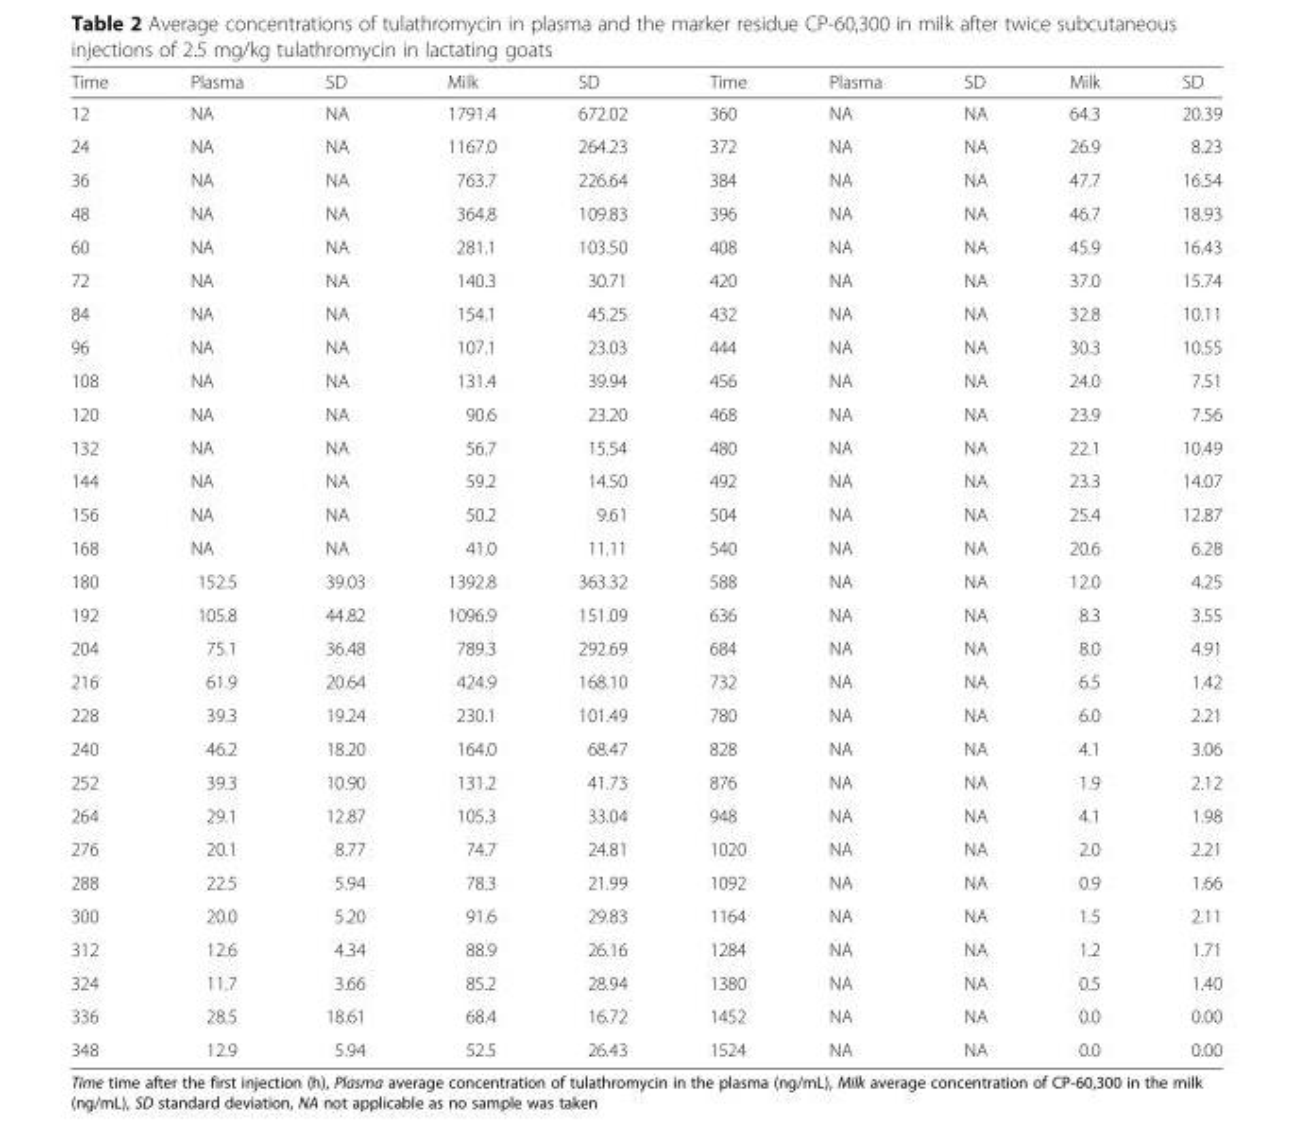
<table><thead><tr><td>Time</td><td>Plasma</td><td>SD</td><td>Milk</td><td>SD</td><td>Time</td><td>Plasma</td><td>SD</td><td>Milk</td><td>SD</td></tr></thead><tbody><tr><td>12</td><td>NA</td><td>NA</td><td>1791.4</td><td>672.02</td><td>360</td><td>NA</td><td>NA</td><td>64.3</td><td>20.39</td></tr><tr><td>24</td><td>NA</td><td>NA</td><td>1167.0</td><td>264.23</td><td>372</td><td>NA</td><td>NA</td><td>26.9</td><td>8.23</td></tr><tr><td>36</td><td>NA</td><td>NA</td><td>763.7</td><td>226.64</td><td>384</td><td>NA</td><td>NA</td><td>47.7</td><td>16.54</td></tr><tr><td>48</td><td>NA</td><td>NA</td><td>364.8</td><td>109.83</td><td>396</td><td>NA</td><td>NA</td><td>46.7</td><td>18.93</td></tr><tr><td>60</td><td>NA</td><td>NA</td><td>281.1</td><td>103.50</td><td>408</td><td>NA</td><td>NA</td><td>45.9</td><td>16.43</td></tr><tr><td>72</td><td>NA</td><td>NA</td><td>140.3</td><td>30.71</td><td>420</td><td>NA</td><td>NA</td><td>37.0</td><td>15.74</td></tr><tr><td>84</td><td>NA</td><td>NA</td><td>154.1</td><td>45.25</td><td>432</td><td>NA</td><td>NA</td><td>32.8</td><td>10.11</td></tr><tr><td>96</td><td>NA</td><td>NA</td><td>107.1</td><td>23.03</td><td>444</td><td>NA</td><td>NA</td><td>30.3</td><td>10.55</td></tr><tr><td>108</td><td>NA</td><td>NA</td><td>131.4</td><td>39.94</td><td>456</td><td>NA</td><td>NA</td><td>24.0</td><td>7.51</td></tr><tr><td>120</td><td>NA</td><td>NA</td><td>90.6</td><td>23.20</td><td>468</td><td>NA</td><td>NA</td><td>23.9</td><td>7.56</td></tr><tr><td>132</td><td>NA</td><td>NA</td><td>56.7</td><td>15.54</td><td>480</td><td>NA</td><td>NA</td><td>22.1</td><td>10.49</td></tr><tr><td>144</td><td>NA</td><td>NA</td><td>59.2</td><td>14.50</td><td>492</td><td>NA</td><td>NA</td><td>23.3</td><td>14.07</td></tr><tr><td>156</td><td>NA</td><td>NA</td><td>50.2</td><td>9.61</td><td>504</td><td>NA</td><td>NA</td><td>25.4</td><td>12.87</td></tr><tr><td>168</td><td>NA</td><td>NA</td><td>41.0</td><td>11.11</td><td>540</td><td>NA</td><td>NA</td><td>20.6</td><td>6.28</td></tr><tr><td>180</td><td>152.5</td><td>39.03</td><td>1392.8</td><td>363.32</td><td>588</td><td>NA</td><td>NA</td><td>12.0</td><td>4.25</td></tr><tr><td>192</td><td>105.8</td><td>44.82</td><td>1096.9</td><td>151.09</td><td>636</td><td>NA</td><td>NA</td><td>8.3</td><td>3.55</td></tr><tr><td>204</td><td>75.1</td><td>36.48</td><td>789.3</td><td>292.69</td><td>684</td><td>NA</td><td>NA</td><td>8.0</td><td>4.91</td></tr><tr><td>216</td><td>61.9</td><td>20.64</td><td>424.9</td><td>168.10</td><td>732</td><td>NA</td><td>NA</td><td>6.5</td><td>1.42</td></tr><tr><td>228</td><td>39.3</td><td>19.24</td><td>230.1</td><td>101.49</td><td>780</td><td>NA</td><td>NA</td><td>6.0</td><td>2.21</td></tr><tr><td>240</td><td>46.2</td><td>18.20</td><td>164.0</td><td>68.47</td><td>828</td><td>NA</td><td>NA</td><td>4.1</td><td>3.06</td></tr><tr><td>252</td><td>39.3</td><td>10.90</td><td>131.2</td><td>41.73</td><td>876</td><td>NA</td><td>NA</td><td>1.9</td><td>2.12</td></tr><tr><td>264</td><td>29.1</td><td>12.87</td><td>105.3</td><td>33.04</td><td>948</td><td>NA</td><td>NA</td><td>4.1</td><td>1.98</td></tr><tr><td>276</td><td>20.1</td><td>8.77</td><td>74.7</td><td>24.81</td><td>1020</td><td>NA</td><td>NA</td><td>2.0</td><td>2.21</td></tr><tr><td>288</td><td>22.5</td><td>5.94</td><td>78.3</td><td>21.99</td><td>1092</td><td>NA</td><td>NA</td><td>0.9</td><td>1.66</td></tr><tr><td>300</td><td>20.0</td><td>5.20</td><td>91.6</td><td>29.83</td><td>1164</td><td>NA</td><td>NA</td><td>1.5</td><td>2.11</td></tr><tr><td>312</td><td>12.6</td><td>4.34</td><td>88.9</td><td>26.16</td><td>1284</td><td>NA</td><td>NA</td><td>1.2</td><td>1.71</td></tr><tr><td>324</td><td>11.7</td><td>3.66</td><td>85.2</td><td>28.94</td><td>1380</td><td>NA</td><td>NA</td><td>0.5</td><td>1.40</td></tr><tr><td>336</td><td>28.5</td><td>18.61</td><td>68.4</td><td>16.72</td><td>1452</td><td>NA</td><td>NA</td><td>0.0</td><td>0.00</td></tr><tr><td>348</td><td>12.9</td><td>5.94</td><td>52.5</td><td>26.43</td><td>1524</td><td>NA</td><td>NA</td><td>0.0</td><td>0.00</td></tr></tbody></table>